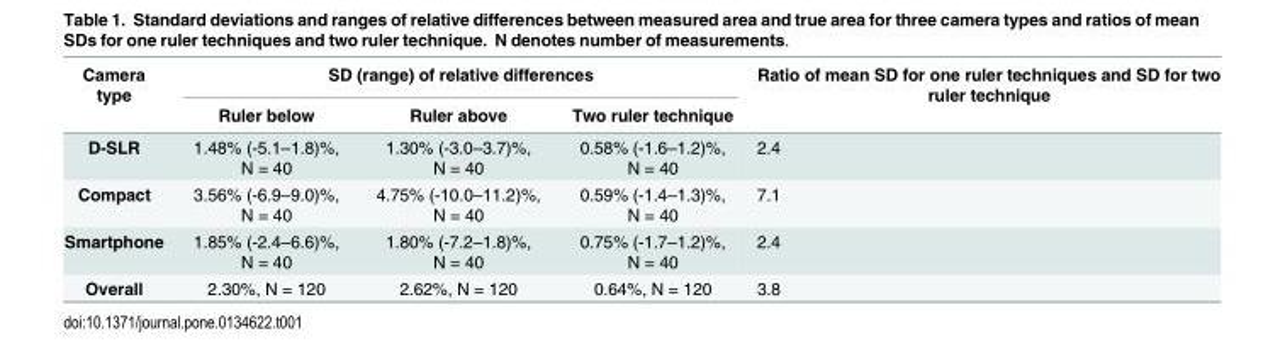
<table><thead><tr><td rowspan="2">Camera type</td><td colspan="3">SD (range) of relative differences</td><td rowspan="2">Ratio of mean SD for one ruler techniques and SD for two ruler technique</td></tr><tr><td>Ruler below</td><td>Ruler above</td><td>Two ruler technique</td></tr></thead><tbody><tr><td>D-SLR</td><td>1.48% (-5.1–1.8)%, N = 40</td><td>1.30% (-3.0–3.7)%, N = 40</td><td>0.58% (-1.6–1.2)%, N = 40</td><td>2.4</td></tr><tr><td>Compact</td><td>3.56% (-6.9–9.0)%, N = 40</td><td>4.75% (-10.0–11.2)%, N = 40</td><td>0.59% (-1.4–1.3)%, N = 40</td><td>7.1</td></tr><tr><td>Smartphone</td><td>1.85% (-2.4–6.6)%, N = 40</td><td>1.80% (-7.2–1.8)%, N = 40</td><td>0.75% (-1.7–1.2)%, N = 40</td><td>2.4</td></tr><tr><td>Overall</td><td>2.30%, N = 120</td><td>2.62%, N = 120</td><td>0.64%, N = 120</td><td>3.8</td></tr></tbody></table>